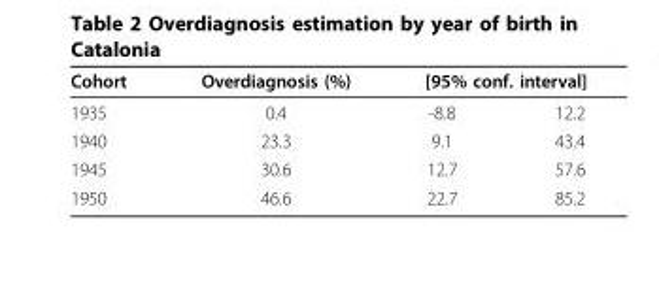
<table><thead><tr><td rowspan="2">Cohort 1935</td><td rowspan="2">Overdiagnosis (%) 0.4</td><td colspan="2">[95% conf. interval]</td></tr><tr><td>-8.8</td><td>12.2</td></tr></thead><tbody><tr><td>1940</td><td>23.3</td><td>9.1</td><td>43.4</td></tr><tr><td>1945</td><td>30.6</td><td>12.7</td><td>57.6</td></tr><tr><td>1950</td><td>46.6</td><td>22.7</td><td>85.2</td></tr></tbody></table>